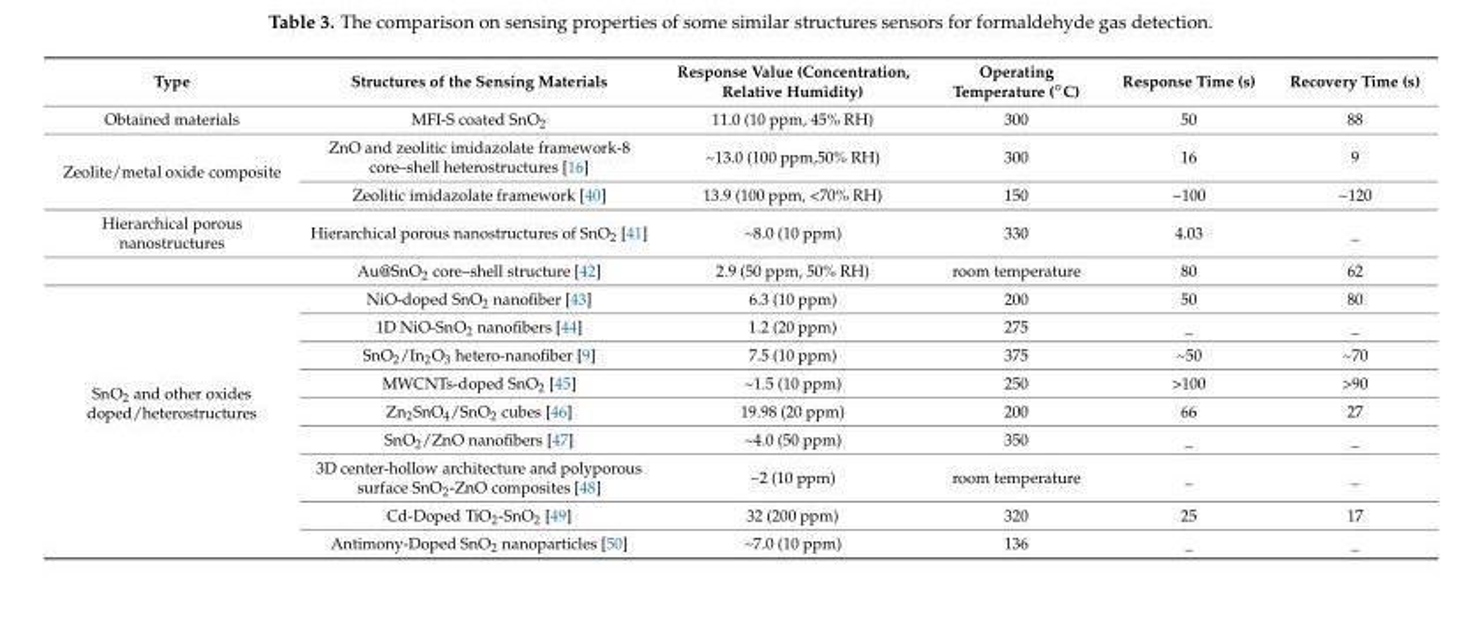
<table><thead><tr><td>Type</td><td>Structures of the Sensing Materials</td><td>Response Value (Concentration, Relative Humidity)</td><td>Operating Temperature (◦C)</td><td>Response Time (s)</td><td>Recovery Time (s)</td></tr></thead><tbody><tr><td>Obtained materials</td><td>MFI-S coated SnO<sub>2</sub></td><td>11.0 (10 ppm, 45% RH)</td><td>300</td><td>50</td><td>88</td></tr><tr><td rowspan="2">Zeolite/metal oxide composite</td><td>ZnO and zeolitic imidazolate framework-8 core–shell heterostructures [16]</td><td>~13.0 (100 ppm,50% RH)</td><td>300</td><td>16</td><td>9</td></tr><tr><td>Zeolitic imidazolate framework [40]</td><td>13.9 (100 ppm, &lt;70% RH)</td><td>150</td><td>~100</td><td>~120</td></tr><tr><td rowspan="2">Hierarchical porous nanostructures</td><td>Hierarchical porous nanostructures of SnO<sub>2</sub> [41]</td><td>~8.0 (10 ppm)</td><td>330</td><td>4.03</td><td>_</td></tr><tr><td>Au@SnO<sub>2</sub> core–shell structure [42]</td><td>2.9 (50 ppm, 50% RH)</td><td>room temperature</td><td>80</td><td>62</td></tr><tr><td rowspan="9">SnO<sub>2</sub> and other oxides doped/heterostructures</td><td>NiO-doped SnO<sub>2</sub> nanofiber [43]</td><td>6.3 (10 ppm)</td><td>200</td><td>50</td><td>80</td></tr><tr><td>1D NiO-SnO<sub>2</sub> nanofibers [44]</td><td>1.2 (20 ppm)</td><td>275</td><td>_</td><td>_</td></tr><tr><td>SnO<sub>2</sub>/In<sub>2</sub>O<sub>3</sub> hetero-nanofiber [9]</td><td>7.5 (10 ppm)</td><td>375</td><td>~50</td><td>~70</td></tr><tr><td>MWCNTs-doped SnO<sub>2</sub> [45]</td><td>~1.5 (10 ppm)</td><td>250</td><td>&gt;100</td><td>&gt;90</td></tr><tr><td>Zn<sub>2</sub>SnO<sub>4</sub>/SnO<sub>2</sub> cubes [46]</td><td>19.98 (20 ppm)</td><td>200</td><td>66</td><td>27</td></tr><tr><td>SnO<sub>2</sub>/ZnO nanofibers [47]</td><td>~4.0 (50 ppm)</td><td>350</td><td>_</td><td>_</td></tr><tr><td>3D center-hollow architecture and polyporous surface SnO<sub>2</sub>-ZnO composites [48]</td><td>~2 (10 ppm)</td><td>room temperature</td><td>_</td><td>_</td></tr><tr><td>Cd-Doped TiO<sub>2</sub>-SnO<sub>2</sub> [49]</td><td>32 (200 ppm)</td><td>320</td><td>25</td><td>17</td></tr><tr><td>Antimony-Doped SnO<sub>2</sub> nanoparticles [50]</td><td>~7.0 (10 ppm)</td><td>136</td><td>_</td><td>_</td></tr></tbody></table>